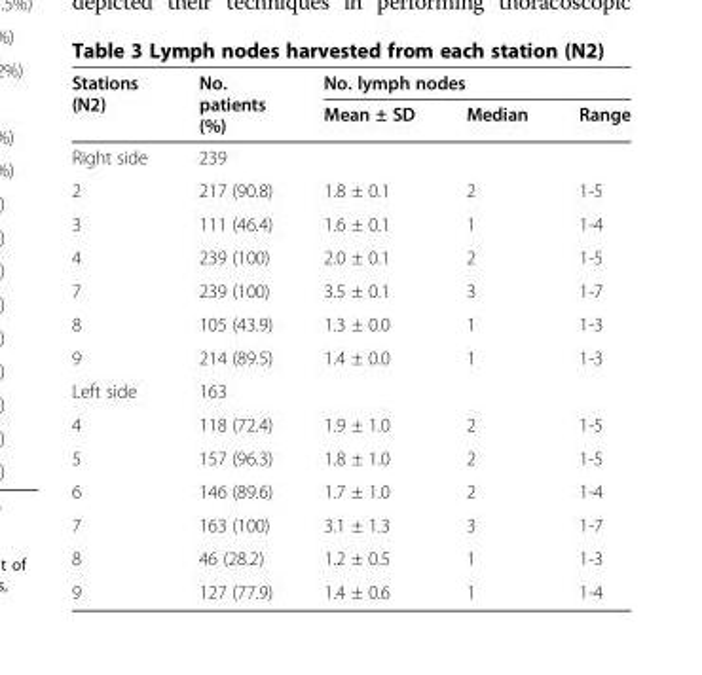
<table><thead><tr><td rowspan="2">Stations (N2)</td><td rowspan="2">No. patients (%)</td><td colspan="3">No. lymph nodes</td></tr><tr><td>Mean ± SD</td><td>Median</td><td>Range</td></tr></thead><tbody><tr><td>Right side</td><td>239</td><td></td><td></td><td></td></tr><tr><td>2</td><td>217 (90.8)</td><td>1.8 ± 0.1</td><td>2</td><td>1-5</td></tr><tr><td>3</td><td>111 (46.4)</td><td>1.6 ± 0.1</td><td>1</td><td>1-4</td></tr><tr><td>4</td><td>239 (100)</td><td>2.0 ± 0.1</td><td>2</td><td>1-5</td></tr><tr><td>7</td><td>239 (100)</td><td>3.5 ± 0.1</td><td>3</td><td>1-7</td></tr><tr><td>8</td><td>105 (43.9)</td><td>1.3 ± 0.0</td><td>1</td><td>1-3</td></tr><tr><td>9</td><td>214 (89.5)</td><td>1.4 ± 0.0</td><td>1</td><td>1-3</td></tr><tr><td>Left side</td><td>163</td><td></td><td></td><td></td></tr><tr><td>4</td><td>118 (72.4)</td><td>1.9 ± 1.0</td><td>2</td><td>1-5</td></tr><tr><td>5</td><td>157 (96.3)</td><td>1.8 ± 1.0</td><td>2</td><td>1-5</td></tr><tr><td>6</td><td>146 (89.6)</td><td>1.7 ± 1.0</td><td>2</td><td>1-4</td></tr><tr><td>7</td><td>163 (100)</td><td>3.1 ± 1.3</td><td>3</td><td>1-7</td></tr><tr><td>8</td><td>46 (28.2)</td><td>1.2 ± 0.5</td><td>1</td><td>1-3</td></tr><tr><td>9</td><td>127 (77.9)</td><td>1.4 ± 0.6</td><td>1</td><td>1-4</td></tr></tbody></table>